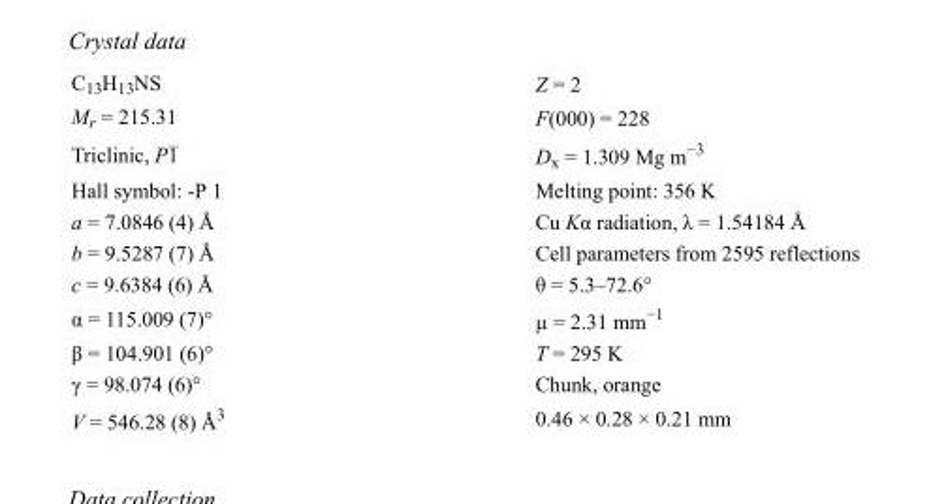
<table><tbody><tr><td>C<sub>13</sub>H<sub>13</sub>NS</td><td>Z = 2</td></tr><tr><td>M<sub>r</sub> = 215.31</td><td>F(000) = 228</td></tr><tr><td>Triclinic, P1</td><td>D<sub>x</sub> = 1.309 Mg m<sup>−3</sup></td></tr><tr><td>Hall symbol: -P 1</td><td>Melting point: 356 K</td></tr><tr><td>a = 7.0846 (4) Å</td><td>Cu Kα radiation, λ = 1.54184 Å</td></tr><tr><td>b = 9.5287 (7) Å</td><td>Cell parameters from 2595 reflections</td></tr><tr><td>c = 9.6384 (6) Å</td><td>θ = 5.3–72.6°</td></tr><tr><td>α = 115.009 (7)°</td><td>µ = 2.31 mm<sup>−1</sup></td></tr><tr><td>β = 104.901 (6)°</td><td>T = 295 K</td></tr><tr><td>γ = 98.074 (6)°</td><td>Chunk, orange</td></tr><tr><td>V = 546.28 (8) Å<sup>3</sup></td><td>0.46 × 0.28 × 0.21 mm</td></tr></tbody></table>